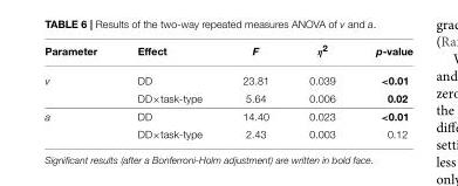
<table><thead><tr><td>Parameter</td><td>Effect</td><td>F</td><td>η<sup>2</sup></td><td>p-value</td></tr></thead><tbody><tr><td rowspan="2">v</td><td>DD</td><td>23.81</td><td>0.039</td><td>&lt;0.01</td></tr><tr><td>DD×task-type</td><td>5.64</td><td>0.006</td><td>0.02</td></tr><tr><td rowspan="2">a</td><td>DD</td><td>14.40</td><td>0.023</td><td>&lt;0.01</td></tr><tr><td>DD×task-type</td><td>2.43</td><td>0.003</td><td>0.12</td></tr></tbody></table>